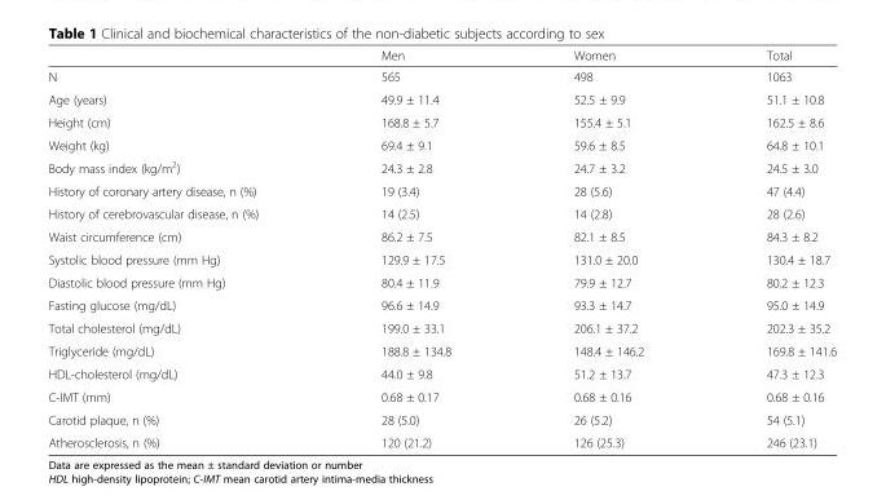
<table><thead><tr><td></td><td>Men</td><td>Women</td><td>Total</td></tr></thead><tbody><tr><td>N</td><td>565</td><td>498</td><td>1063</td></tr><tr><td>Age (years)</td><td>49.9 ± 11.4</td><td>52.5 ± 9.9</td><td>51.1 ± 10.8</td></tr><tr><td>Height (cm)</td><td>168.8 ± 5.7</td><td>155.4 ± 5.1</td><td>162.5 ± 8.6</td></tr><tr><td>Weight (kg)</td><td>69.4 ± 9.1</td><td>59.6 ± 8.5</td><td>64.8 ± 10.1</td></tr><tr><td>Body mass index (kg/m<sup>2</sup>)</td><td>24.3 ± 2.8</td><td>24.7 ± 3.2</td><td>24.5 ± 3.0</td></tr><tr><td>History of coronary artery disease, n (%)</td><td>19 (3.4)</td><td>28 (5.6)</td><td>47 (4.4)</td></tr><tr><td>History of cerebrovascular disease, n (%)</td><td>14 (2.5)</td><td>14 (2.8)</td><td>28 (2.6)</td></tr><tr><td>Waist circumference (cm)</td><td>86.2 ± 7.5</td><td>82.1 ± 8.5</td><td>84.3 ± 8.2</td></tr><tr><td>Systolic blood pressure (mm Hg)</td><td>129.9 ± 17.5</td><td>131.0 ± 20.0</td><td>130.4 ± 18.7</td></tr><tr><td>Diastolic blood pressure (mm Hg)</td><td>80.4 ± 11.9</td><td>79.9 ± 12.7</td><td>80.2 ± 12.3</td></tr><tr><td>Fasting glucose (mg/dL)</td><td>96.6 ± 14.9</td><td>93.3 ± 14.7</td><td>95.0 ± 14.9</td></tr><tr><td>Total cholesterol (mg/dL)</td><td>199.0 ± 33.1</td><td>206.1 ± 37.2</td><td>202.3 ± 35.2</td></tr><tr><td>Triglyceride (mg/dL)</td><td>188.8 ± 134.8</td><td>148.4 ± 146.2</td><td>169.8 ± 141.6</td></tr><tr><td>HDL-cholesterol (mg/dL)</td><td>44.0 ± 9.8</td><td>51.2 ± 13.7</td><td>47.3 ± 12.3</td></tr><tr><td>C-IMT (mm)</td><td>0.68 ± 0.17</td><td>0.68 ± 0.16</td><td>0.68 ± 0.16</td></tr><tr><td>Carotid plaque, n (%)</td><td>28 (5.0)</td><td>26 (5.2)</td><td>54 (5.1)</td></tr><tr><td>Atherosclerosis, n (%)</td><td>120 (21.2)</td><td>126 (25.3)</td><td>246 (23.1)</td></tr></tbody></table>